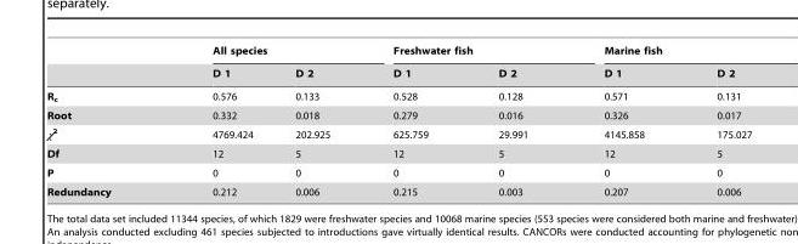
<table><thead><tr><td rowspan="2"></td><td colspan="2">All species</td><td colspan="2">Freshwater fish</td><td colspan="2">Marine fish</td></tr><tr><td>D 1</td><td>D 2</td><td>D 1</td><td>D 2</td><td>D 1</td><td>D 2</td></tr></thead><tbody><tr><td>R<sub>c</sub></td><td>0.576</td><td>0.133</td><td>0.528</td><td>0.128</td><td>0.571</td><td>0.131</td></tr><tr><td>Root</td><td>0.332</td><td>0.018</td><td>0.279</td><td>0.016</td><td>0.326</td><td>0.017</td></tr><tr><td>χ<sup>2</sup></td><td>4769.424</td><td>202.925</td><td>625.759</td><td>29.991</td><td>4145.858</td><td>175.027</td></tr><tr><td>Df</td><td>12</td><td>5</td><td>12</td><td>5</td><td>12</td><td>5</td></tr><tr><td>P</td><td>0</td><td>0</td><td>0</td><td>0</td><td>0</td><td>0</td></tr><tr><td>Redundancy</td><td>0.212</td><td>0.006</td><td>0.215</td><td>0.003</td><td>0.207</td><td>0.006</td></tr></tbody></table>